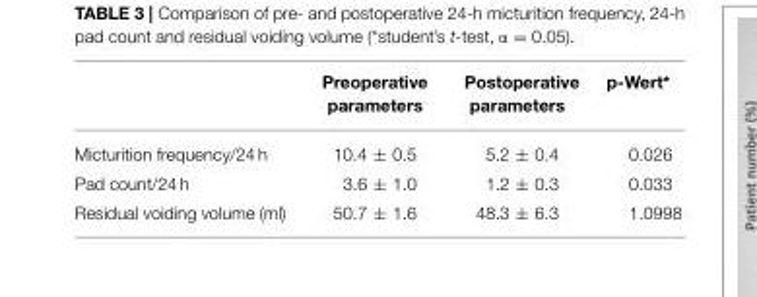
<table><thead><tr><td></td><td>Preoperative parameters</td><td>Postoperative parameters</td><td>p-Wert*</td></tr></thead><tbody><tr><td>Micturition frequency/24 h</td><td>10.4 ± 0.5</td><td>5.2 ± 0.4</td><td>0.026</td></tr><tr><td>Pad count/24 h</td><td>3.6 ± 1.0</td><td>1.2 ± 0.3</td><td>0.033</td></tr><tr><td>Residual voiding volume (ml)</td><td>50.7 ± 1.6</td><td>48.3 ± 6.3</td><td>1.0998</td></tr></tbody></table>